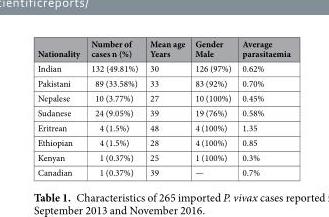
<table><thead><tr><td>Nationality</td><td>Number of cases n (%)</td><td>Mean age Years</td><td>Gender Male</td><td>Average parasitaemia</td></tr></thead><tbody><tr><td>Indian</td><td>132 (49.81%)</td><td>30</td><td>126 (97%)</td><td>0.62%</td></tr><tr><td>Pakistani</td><td>89 (33.58%)</td><td>33</td><td>83 (92%)</td><td>0.70%</td></tr><tr><td>Nepalese</td><td>10 (3.77%)</td><td>27</td><td>10 (100%)</td><td>0.45%</td></tr><tr><td>Sudanese</td><td>24 (9.05%)</td><td>39</td><td>19 (76%)</td><td>0.58%</td></tr><tr><td>Eritrean</td><td>4 (1.5%)</td><td>48</td><td>4 (100%)</td><td>1.35</td></tr><tr><td>Ethiopian</td><td>4 (1.5%)</td><td>28</td><td>4 (100%)</td><td>0.85</td></tr><tr><td>Kenyan</td><td>1 (0.37%)</td><td>25</td><td>1 (100%)</td><td>0.3%</td></tr><tr><td>Canadian</td><td>1 (0.37%)</td><td>39</td><td>—</td><td>0.7%</td></tr></tbody></table>